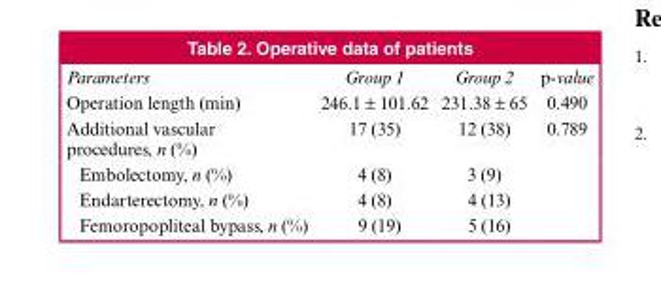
<table><thead><tr><td>Parameters</td><td>Group 1</td><td>Group 2</td><td>p-value</td></tr></thead><tbody><tr><td>Operation length (min)</td><td>246.1 ± 101.62</td><td>231.38 ± 65</td><td>0.490</td></tr><tr><td>Additional vascular procedures, n (%)</td><td>17 (35)</td><td>12 (38)</td><td>0.789</td></tr><tr><td>Embolectomy, n (%)</td><td>4 (8)</td><td>3 (9)</td><td></td></tr><tr><td>Endarterectomy, n (%)</td><td>4 (8)</td><td>4 (13)</td><td></td></tr><tr><td>Femoropopliteal bypass, n (%)</td><td>9 (19)</td><td>5 (16)</td><td></td></tr></tbody></table>